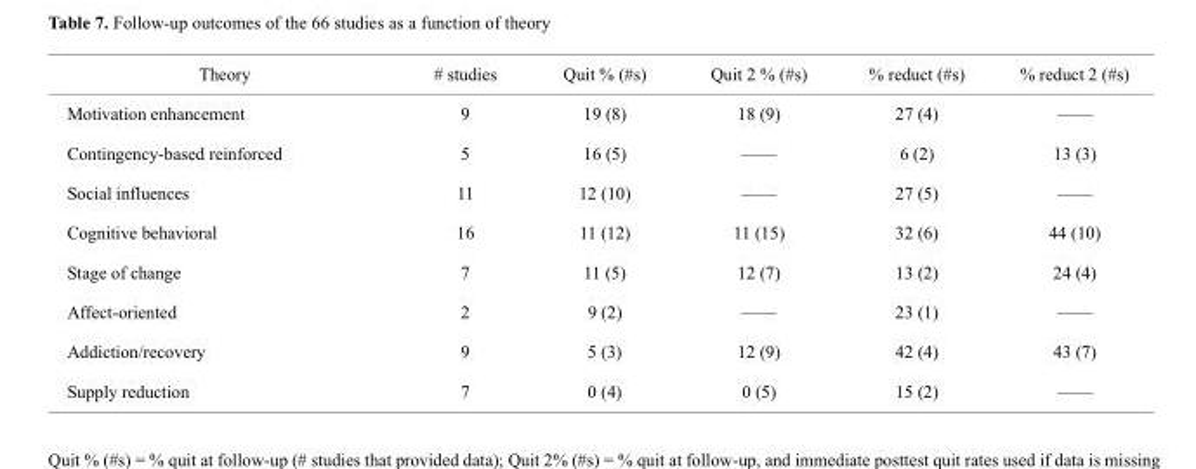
<table><thead><tr><td>Theory</td><td># studies</td><td>Quit % (#s)</td><td>Quit 2 % (#s)</td><td>% reduct (#s)</td><td>% reduct 2 (#s)</td></tr></thead><tbody><tr><td>Motivation enhancement</td><td>9</td><td>19 (8)</td><td>18 (9)</td><td>27 (4)</td><td>——</td></tr><tr><td>Contingency-based reinforced</td><td>5</td><td>16 (5)</td><td>——</td><td>6 (2)</td><td>13 (3)</td></tr><tr><td>Social influences</td><td>11</td><td>12 (10)</td><td>——</td><td>27 (5)</td><td>——</td></tr><tr><td>Cognitive behavioral</td><td>16</td><td>11 (12)</td><td>11 (15)</td><td>32 (6)</td><td>44 (10)</td></tr><tr><td>Stage of change</td><td>7</td><td>11 (5)</td><td>12 (7)</td><td>13 (2)</td><td>24 (4)</td></tr><tr><td>Affect-oriented</td><td>2</td><td>9 (2)</td><td>——</td><td>23 (1)</td><td>——</td></tr><tr><td>Addiction/recovery</td><td>9</td><td>5 (3)</td><td>12 (9)</td><td>42 (4)</td><td>43 (7)</td></tr><tr><td>Supply reduction</td><td>7</td><td>0 (4)</td><td>0 (5)</td><td>15 (2)</td><td>——</td></tr></tbody></table>